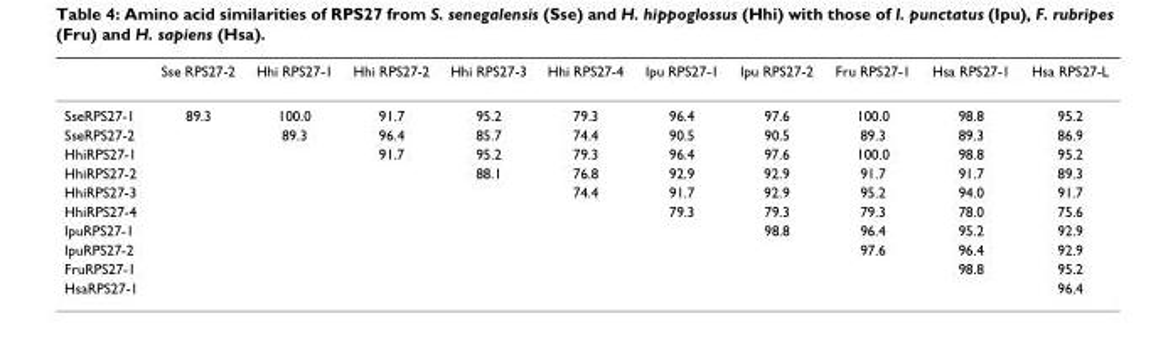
<table><thead><tr><td></td><td>Sse RPS27-2</td><td>Hhi RPS27-1</td><td>Hhi RPS27-2</td><td>Hhi RPS27-3</td><td>Hhi RPS27-4</td><td>Ipu RPS27-1</td><td>Ipu RPS27-2</td><td>Fru RPS27-1</td><td>Hsa RPS27-1</td><td>Hsa RPS27-L</td></tr></thead><tbody><tr><td>SseRPS27-1</td><td>89.3</td><td>100.0</td><td>91.7</td><td>95.2</td><td>79.3</td><td>96.4</td><td>97.6</td><td>100.0</td><td>98.8</td><td>95.2</td></tr><tr><td>SseRPS27-2</td><td></td><td>89.3</td><td>96.4</td><td>85.7</td><td>74.4</td><td>90.5</td><td>90.5</td><td>89.3</td><td>89.3</td><td>86.9</td></tr><tr><td>HhiRPS27-1</td><td></td><td></td><td>91.7</td><td>95.2</td><td>79.3</td><td>96.4</td><td>97.6</td><td>100.0</td><td>98.8</td><td>95.2</td></tr><tr><td>HhiRPS27-2</td><td></td><td></td><td></td><td>88.1</td><td>76.8</td><td>92.9</td><td>92.9</td><td>91.7</td><td>91.7</td><td>89.3</td></tr><tr><td>HhiRPS27-3</td><td></td><td></td><td></td><td></td><td>74.4</td><td>91.7</td><td>92.9</td><td>95.2</td><td>94.0</td><td>91.7</td></tr><tr><td>HhiRPS27-4</td><td></td><td></td><td></td><td></td><td></td><td>79.3</td><td>79.3</td><td>79.3</td><td>78.0</td><td>75.6</td></tr><tr><td>IpuRPS27-1</td><td></td><td></td><td></td><td></td><td></td><td></td><td>98.8</td><td>96.4</td><td>95.2</td><td>92.9</td></tr><tr><td>IpuRPS27-2</td><td></td><td></td><td></td><td></td><td></td><td></td><td></td><td>97.6</td><td>96.4</td><td>92.9</td></tr><tr><td>FruRPS27-1</td><td></td><td></td><td></td><td></td><td></td><td></td><td></td><td></td><td>98.8</td><td>95.2</td></tr><tr><td>HsaRPS27-1</td><td></td><td></td><td></td><td></td><td></td><td></td><td></td><td></td><td></td><td>96.4</td></tr></tbody></table>